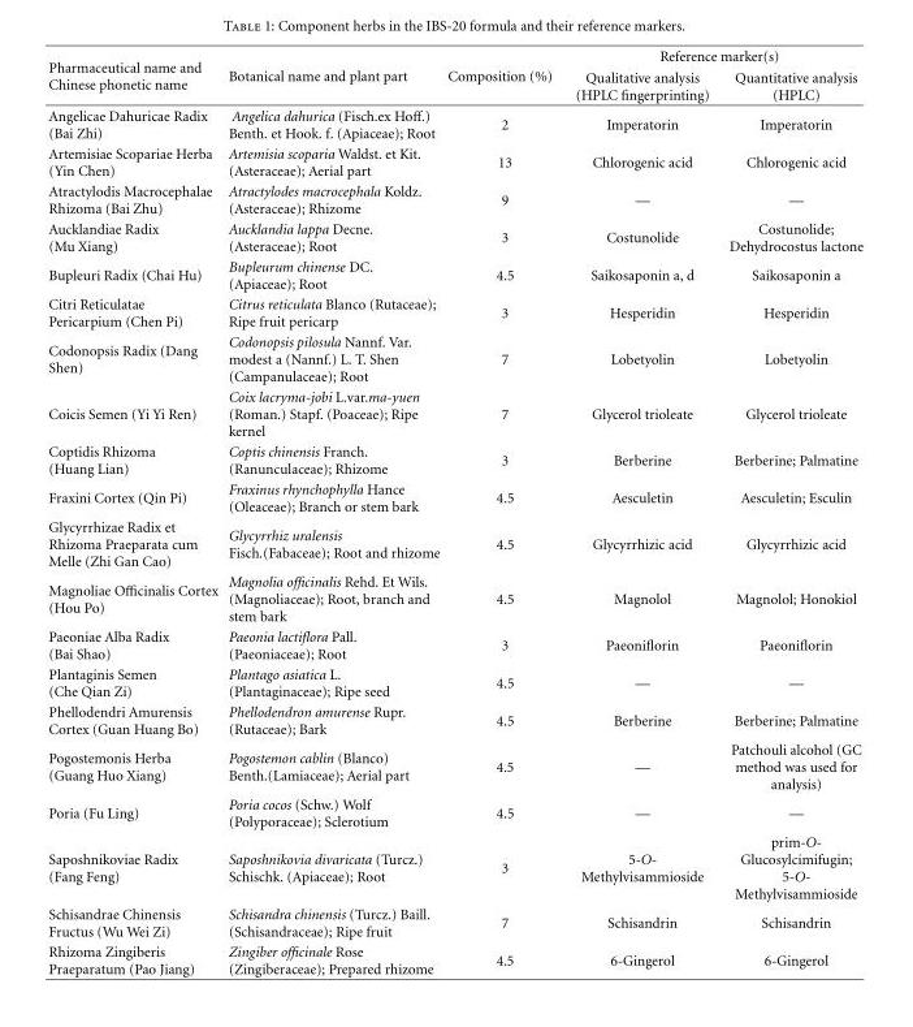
<table><thead><tr><td rowspan="2">Pharmaceutical name and Chinese phonetic name</td><td rowspan="2">Botanical name and plant part</td><td rowspan="2">Composition (%)</td><td colspan="2">Reference marker(s)</td></tr><tr><td>Qualitative analysis (HPLC fingerprinting)</td><td>Quantitative analysis (HPLC)</td></tr></thead><tbody><tr><td>Angelicae Dahuricae Radix (Bai Zhi)</td><td>Angelica dahurica (Fisch.ex Hoff.) Benth. et Hook. f. (Apiaceae); Root</td><td>2</td><td>Imperatorin</td><td>Imperatorin</td></tr><tr><td>Artemisiae Scopariae Herba (Yin Chen)</td><td>Artemisia scoparia Waldst. et Kit. (Asteraceae); Aerial part</td><td>13</td><td>Chlorogenic acid</td><td>Chlorogenic acid</td></tr><tr><td>Atractylodis Macrocephalae Rhizoma (Bai Zhu)</td><td>Atractylodes macrocephala Koldz. (Asteraceae); Rhizome</td><td>9</td><td>—</td><td>—</td></tr><tr><td>Aucklandiae Radix (Mu Xiang)</td><td>Aucklandia lappa Decne. (Asteraceae); Root</td><td>3</td><td>Costunolide</td><td>Costunolide; Dehydrocostus lactone</td></tr><tr><td>Bupleuri Radix (Chai Hu)</td><td>Bupleurum chinense DC. (Apiaceae); Root</td><td>4.5</td><td>Saikosaponin a, d</td><td>Saikosaponin a</td></tr><tr><td>Citri Reticulatae Pericarpium (Chen Pi)</td><td>Citrus reticulata Blanco (Rutaceae); Ripe fruit pericarp</td><td>3</td><td>Hesperidin</td><td>Hesperidin</td></tr><tr><td>Codonopsis Radix (Dang Shen)</td><td>Codonopsis pilosula Nannf. Var. modest a (Nannf.) L. T. Shen (Campanulaceae); Root</td><td>7</td><td>Lobetyolin</td><td>Lobetyolin</td></tr><tr><td>Coicis Semen (Yi Yi Ren)</td><td>Coix lacryma-jobi L.var.ma-yuen (Roman.) Stapf. (Poaceae); Ripe kernel</td><td>7</td><td>Glycerol trioleate</td><td>Glycerol trioleate</td></tr><tr><td>Coptidis Rhizoma (Huang Lian)</td><td>Coptis chinensis Franch. (Ranunculaceae); Rhizome</td><td>3</td><td>Berberine</td><td>Berberine; Palmatine</td></tr><tr><td>Fraxini Cortex (Qin Pi)</td><td>Fraxinus rhynchophylla Hance (Oleaceae); Branch or stem bark</td><td>4.5</td><td>Aesculetin</td><td>Aesculetin; Esculin</td></tr><tr><td>Glycyrrhizae Radix et Rhizoma Praeparata cum Melle (Zhi Gan Cao)</td><td>Glycyrrhiz uralensis Fisch.(Fabaceae); Root and rhizome</td><td>4.5</td><td>Glycyrrhizic acid</td><td>Glycyrrhizic acid</td></tr><tr><td>Magnoliae Officinalis Cortex (Hou Po)</td><td>Magnolia officinalis Rehd. Et Wils. (Magnoliaceae); Root, branch and stem bark</td><td>4.5</td><td>Magnolol</td><td>Magnolol; Honokiol</td></tr><tr><td>Paeoniae Alba Radix (Bai Shao)</td><td>Paeonia lactiflora Pall. (Paeoniaceae); Root</td><td>3</td><td>Paeoniflorin</td><td>Paeoniflorin</td></tr><tr><td>Plantaginis Semen (Che Qian Zi)</td><td>Plantago asiatica L. (Plantaginaceae); Ripe seed</td><td>4.5</td><td>—</td><td>—</td></tr><tr><td>Phellodendri Amurensis Cortex (Guan Huang Bo)</td><td>Phellodendron amurense Rupr. (Rutaceae); Bark</td><td>4.5</td><td>Berberine</td><td>Berberine; Palmatine</td></tr><tr><td>Pogostemonis Herba (Guang Huo Xiang)</td><td>Pogostemon cablin (Blanco) Benth.(Lamiaceae); Aerial part</td><td>4.5</td><td>—</td><td>Patchouli alcohol (GC method was used for analysis)</td></tr><tr><td>Poria (Fu Ling)</td><td>Poria cocos (Schw.) Wolf (Polyporaceae); Sclerotium</td><td>4.5</td><td>—</td><td>—</td></tr><tr><td>Saposhnikoviae Radix (Fang Feng)</td><td>Saposhnikovia divaricata (Turcz.) Schischk. (Apiaceae); Root</td><td>3</td><td>5-O- Methylvisammioside</td><td>prim-O- Glucosylcimifugin; 5-O- Methylvisammioside</td></tr><tr><td>Schisandrae Chinensis Fructus (Wu Wei Zi)</td><td>Schisandra chinensis (Turcz.) Baill. (Schisandraceae); Ripe fruit</td><td>7</td><td>Schisandrin</td><td>Schisandrin</td></tr><tr><td>Rhizoma Zingiberis Praeparatum (Pao Jiang)</td><td>Zingiber officinale Rose (Zingiberaceae); Prepared rhizome</td><td>4.5</td><td>6-Gingerol</td><td>6-Gingerol</td></tr></tbody></table>